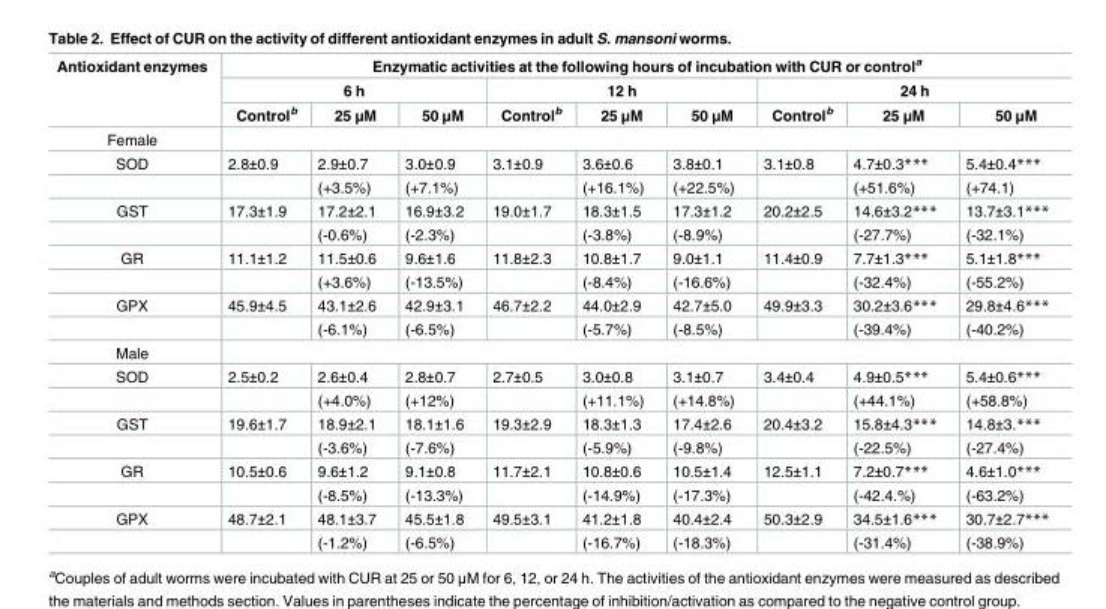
<table><thead><tr><td rowspan="3">Antioxidant enzymes</td><td colspan="9">Enzymatic activities at the following hours of incubation with CUR or control<sup>a</sup></td></tr><tr><td colspan="3">6 h</td><td colspan="3">12 h</td><td colspan="3">24 h</td></tr><tr><td>Control<sup>b</sup></td><td>25 μM</td><td>50 μM</td><td>Control<sup>b</sup></td><td>25 μM</td><td>50 μM</td><td>Control<sup>b</sup></td><td>25 μM</td><td>50 μM</td></tr></thead><tbody><tr><td colspan="10">Female</td></tr><tr><td rowspan="2">SOD</td><td>2.8±0.9</td><td>2.9±0.7</td><td>3.0±0.9</td><td>3.1±0.9</td><td>3.6±0.6</td><td>3.8±0.1</td><td>3.1±0.8</td><td>4.7±0.3***</td><td>5.4±0.4***</td></tr><tr><td></td><td>(+3.5%)</td><td>(+7.1%)</td><td></td><td>(+16.1%)</td><td>(+22.5%)</td><td></td><td>(+51.6%)</td><td>(+74.1)</td></tr><tr><td rowspan="2">GST</td><td>17.3±1.9</td><td>17.2±2.1</td><td>16.9±3.2</td><td>19.0±1.7</td><td>18.3±1.5</td><td>17.3±1.2</td><td>20.2±2.5</td><td>14.6±3.2***</td><td>13.7±3.1***</td></tr><tr><td></td><td>(-0.6%)</td><td>(-2.3%)</td><td></td><td>(-3.8%)</td><td>(-8.9%)</td><td></td><td>(-27.7%)</td><td>(-32.1%)</td></tr><tr><td rowspan="2">GR</td><td>11.1±1.2</td><td>11.5±0.6</td><td>9.6±1.6</td><td>11.8±2.3</td><td>10.8±1.7</td><td>9.0±1.1</td><td>11.4±0.9</td><td>7.7±1.3***</td><td>5.1±1.8***</td></tr><tr><td></td><td>(+3.6%)</td><td>(-13.5%)</td><td></td><td>(-8.4%)</td><td>(-16.6%)</td><td></td><td>(-32.4%)</td><td>(-55.2%)</td></tr><tr><td rowspan="2">GPX</td><td>45.9±4.5</td><td>43.1±2.6</td><td>42.9±3.1</td><td>46.7±2.2</td><td>44.0±2.9</td><td>42.7±5.0</td><td>49.9±3.3</td><td>30.2±3.6***</td><td>29.8±4.6***</td></tr><tr><td></td><td>(-6.1%)</td><td>(-6.5%)</td><td></td><td>(-5.7%)</td><td>(-8.5%)</td><td></td><td>(-39.4%)</td><td>(-40.2%)</td></tr><tr><td colspan="10">Male</td></tr><tr><td rowspan="2">SOD</td><td>2.5±0.2</td><td>2.6±0.4</td><td>2.8±0.7</td><td>2.7±0.5</td><td>3.0±0.8</td><td>3.1±0.7</td><td>3.4±0.4</td><td>4.9±0.5***</td><td>5.4±0.6***</td></tr><tr><td></td><td>(+4.0%)</td><td>(+12%)</td><td></td><td>(+11.1%)</td><td>(+14.8%)</td><td></td><td>(+44.1%)</td><td>(+58.8%)</td></tr><tr><td rowspan="2">GST</td><td>19.6±1.7</td><td>18.9±2.1</td><td>18.1±1.6</td><td>19.3±2.9</td><td>18.3±1.3</td><td>17.4±2.6</td><td>20.4±3.2</td><td>15.8±4.3***</td><td>14.8±3.***</td></tr><tr><td></td><td>(-3.6%)</td><td>(-7.6%)</td><td></td><td>(-5.9%)</td><td>(-9.8%)</td><td></td><td>(-22.5%)</td><td>(-27.4%)</td></tr><tr><td rowspan="2">GR</td><td>10.5±0.6</td><td>9.6±1.2</td><td>9.1±0.8</td><td>11.7±2.1</td><td>10.8±0.6</td><td>10.5±1.4</td><td>12.5±1.1</td><td>7.2±0.7***</td><td>4.6±1.0***</td></tr><tr><td></td><td>(-8.5%)</td><td>(-13.3%)</td><td></td><td>(-14.9%)</td><td>(-17.3%)</td><td></td><td>(-42.4.%)</td><td>(-63.2%)</td></tr><tr><td rowspan="2">GPX</td><td>48.7±2.1</td><td>48.1±3.7</td><td>45.5±1.8</td><td>49.5±3.1</td><td>41.2±1.8</td><td>40.4±2.4</td><td>50.3±2.9</td><td>34.5±1.6***</td><td>30.7±2.7***</td></tr><tr><td></td><td>(-1.2%)</td><td>(-6.5%)</td><td></td><td>(-16.7%)</td><td>(-18.3%)</td><td></td><td>(-31.4%)</td><td>(-38.9%)</td></tr></tbody></table>